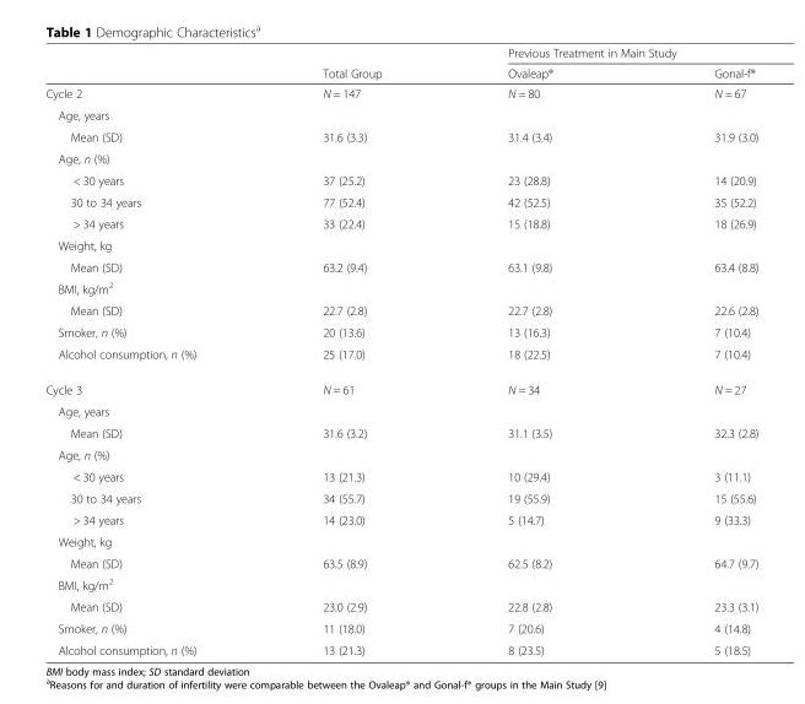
<table><thead><tr><td rowspan="2"></td><td rowspan="2">Total Group</td><td colspan="2">Previous Treatment in Main Study</td></tr><tr><td>Ovaleap®</td><td>Gonal-f®</td></tr></thead><tbody><tr><td>Cycle 2</td><td>N = 147</td><td>N = 80</td><td>N = 67</td></tr><tr><td colspan="4">Age, years</td></tr><tr><td>Mean (SD)</td><td>31.6 (3.3)</td><td>31.4 (3.4)</td><td>31.9 (3.0)</td></tr><tr><td colspan="4">Age, n (%)</td></tr><tr><td>&lt; 30 years</td><td>37 (25.2)</td><td>23 (28.8)</td><td>14 (20.9)</td></tr><tr><td>30 to 34 years</td><td>77 (52.4)</td><td>42 (52.5)</td><td>35 (52.2)</td></tr><tr><td>&gt; 34 years</td><td>33 (22.4)</td><td>15 (18.8)</td><td>18 (26.9)</td></tr><tr><td colspan="4">Weight, kg</td></tr><tr><td>Mean (SD)</td><td>63.2 (9.4)</td><td>63.1 (9.8)</td><td>63.4 (8.8)</td></tr><tr><td colspan="4">BMI, kg/m<sup>2</sup></td></tr><tr><td>Mean (SD)</td><td>22.7 (2.8)</td><td>22.7 (2.8)</td><td>22.6 (2.8)</td></tr><tr><td>Smoker, n (%)</td><td>20 (13.6)</td><td>13 (16.3)</td><td>7 (10.4)</td></tr><tr><td>Alcohol consumption, n (%)</td><td>25 (17.0)</td><td>18 (22.5)</td><td>7 (10.4)</td></tr><tr><td>Cycle 3</td><td>N = 61</td><td>N = 34</td><td>N = 27</td></tr><tr><td colspan="4">Age, years</td></tr><tr><td>Mean (SD)</td><td>31.6 (3.2)</td><td>31.1 (3.5)</td><td>32.3 (2.8)</td></tr><tr><td colspan="4">Age, n (%)</td></tr><tr><td>&lt; 30 years</td><td>13 (21.3)</td><td>10 (29.4)</td><td>3 (11.1)</td></tr><tr><td>30 to 34 years</td><td>34 (55.7)</td><td>19 (55.9)</td><td>15 (55.6)</td></tr><tr><td>&gt; 34 years</td><td>14 (23.0)</td><td>5 (14.7)</td><td>9 (33.3)</td></tr><tr><td colspan="4">Weight, kg</td></tr><tr><td>Mean (SD)</td><td>63.5 (8.9)</td><td>62.5 (8.2)</td><td>64.7 (9.7)</td></tr><tr><td colspan="4">BMI, kg/m<sup>2</sup></td></tr><tr><td>Mean (SD)</td><td>23.0 (2.9)</td><td>22.8 (2.8)</td><td>23.3 (3.1)</td></tr><tr><td>Smoker, n (%)</td><td>11 (18.0)</td><td>7 (20.6)</td><td>4 (14.8)</td></tr><tr><td>Alcohol consumption, n (%)</td><td>13 (21.3)</td><td>8 (23.5)</td><td>5 (18.5)</td></tr></tbody></table>